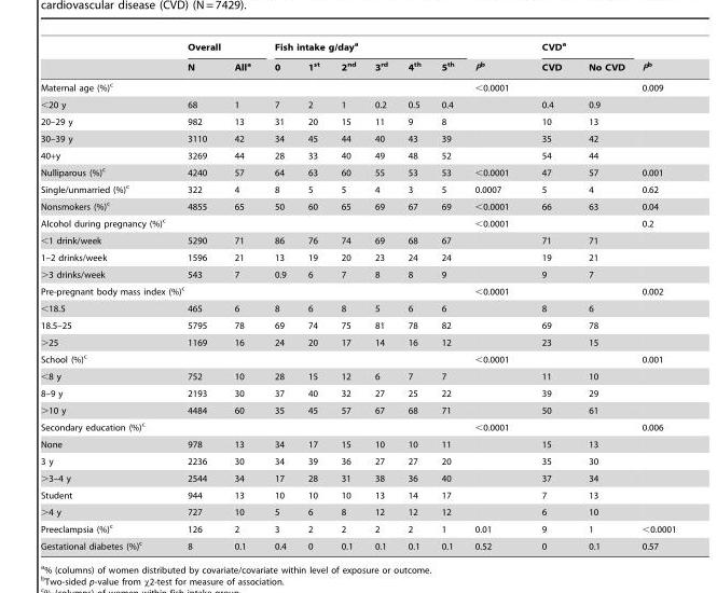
<table><thead><tr><td rowspan="2"></td><td colspan="2">Overall</td><td colspan="6">Fish intake g/day<sup>a</sup></td><td rowspan="2">Pb</td><td colspan="2">CVD<sup>a</sup></td><td rowspan="2">Pb</td></tr><tr><td>N</td><td>All<sup>a</sup></td><td>0</td><td>1<sup>st</sup></td><td>2<sup>nd</sup></td><td>3<sup>rd</sup></td><td>4<sup>th</sup></td><td>5<sup>th</sup></td><td>CVD</td><td>No CVD</td></tr></thead><tbody><tr><td>Maternal age (%)<sup>c</sup></td><td></td><td></td><td></td><td></td><td></td><td></td><td></td><td></td><td>&lt;0.0001</td><td></td><td></td><td>0.009</td></tr><tr><td>&lt;20 y</td><td>68</td><td>1</td><td>7</td><td>2</td><td>1</td><td>0.2</td><td>0.5</td><td>0.4</td><td></td><td>0.4</td><td>0.9</td><td></td></tr><tr><td>20–29 y</td><td>982</td><td>13</td><td>31</td><td>20</td><td>15</td><td>11</td><td>9</td><td>8</td><td></td><td>10</td><td>13</td><td></td></tr><tr><td>30–39 y</td><td>3110</td><td>42</td><td>34</td><td>45</td><td>44</td><td>40</td><td>43</td><td>39</td><td></td><td>35</td><td>42</td><td></td></tr><tr><td>40+y</td><td>3269</td><td>44</td><td>28</td><td>33</td><td>40</td><td>49</td><td>48</td><td>52</td><td></td><td>54</td><td>44</td><td></td></tr><tr><td>Nulliparous (%)<sup>c</sup></td><td>4240</td><td>57</td><td>64</td><td>63</td><td>60</td><td>55</td><td>53</td><td>53</td><td>&lt;0.0001</td><td>47</td><td>57</td><td>0.001</td></tr><tr><td>Single/unmarried (%)<sup>c</sup></td><td>322</td><td>4</td><td>8</td><td>5</td><td>5</td><td>4</td><td>3</td><td>5</td><td>0.0007</td><td>5</td><td>4</td><td>0.62</td></tr><tr><td>Nonsmokers (%)<sup>c</sup></td><td>4855</td><td>65</td><td>50</td><td>60</td><td>65</td><td>69</td><td>67</td><td>69</td><td>&lt;0.0001</td><td>66</td><td>63</td><td>0.04</td></tr><tr><td>Alcohol during pregnancy (%)<sup>c</sup></td><td></td><td></td><td></td><td></td><td></td><td></td><td></td><td></td><td>&lt;0.0001</td><td></td><td></td><td>0.2</td></tr><tr><td>&lt;1 drink/week</td><td>5290</td><td>71</td><td>86</td><td>76</td><td>74</td><td>69</td><td>68</td><td>67</td><td></td><td>71</td><td>71</td><td></td></tr><tr><td>1–2 drinks/week</td><td>1596</td><td>21</td><td>13</td><td>19</td><td>20</td><td>23</td><td>24</td><td>24</td><td></td><td>19</td><td>21</td><td></td></tr><tr><td>&gt;3 drinks/week</td><td>543</td><td>7</td><td>0.9</td><td>6</td><td>7</td><td>8</td><td>8</td><td>9</td><td></td><td>9</td><td>7</td><td></td></tr><tr><td>Pre-pregnant body mass index (%)<sup>c</sup></td><td></td><td></td><td></td><td></td><td></td><td></td><td></td><td></td><td>&lt;0.0001</td><td></td><td></td><td>0.002</td></tr><tr><td>&lt;18.5</td><td>465</td><td>6</td><td>8</td><td>6</td><td>8</td><td>5</td><td>6</td><td>6</td><td></td><td>8</td><td>6</td><td></td></tr><tr><td>18.5–25</td><td>5795</td><td>78</td><td>69</td><td>74</td><td>75</td><td>81</td><td>78</td><td>82</td><td></td><td>69</td><td>78</td><td></td></tr><tr><td>&gt;25</td><td>1169</td><td>16</td><td>24</td><td>20</td><td>17</td><td>14</td><td>16</td><td>12</td><td></td><td>23</td><td>15</td><td></td></tr><tr><td>School (%)<sup>c</sup></td><td></td><td></td><td></td><td></td><td></td><td></td><td></td><td></td><td>&lt;0.0001</td><td></td><td></td><td>0.001</td></tr><tr><td>&lt;8 y</td><td>752</td><td>10</td><td>28</td><td>15</td><td>12</td><td>6</td><td>7</td><td>7</td><td></td><td>11</td><td>10</td><td></td></tr><tr><td>8–9 y</td><td>2193</td><td>30</td><td>37</td><td>40</td><td>32</td><td>27</td><td>25</td><td>22</td><td></td><td>39</td><td>29</td><td></td></tr><tr><td>&gt;10 y</td><td>4484</td><td>60</td><td>35</td><td>45</td><td>57</td><td>67</td><td>68</td><td>71</td><td></td><td>50</td><td>61</td><td></td></tr><tr><td>Secondary education (%)<sup>c</sup></td><td></td><td></td><td></td><td></td><td></td><td></td><td></td><td></td><td>&lt;0.0001</td><td></td><td></td><td>0.006</td></tr><tr><td>None</td><td>978</td><td>13</td><td>34</td><td>17</td><td>15</td><td>10</td><td>10</td><td>11</td><td></td><td>15</td><td>13</td><td></td></tr><tr><td>3 y</td><td>2236</td><td>30</td><td>34</td><td>39</td><td>36</td><td>27</td><td>27</td><td>20</td><td></td><td>35</td><td>30</td><td></td></tr><tr><td>&gt;3–4 y</td><td>2544</td><td>34</td><td>17</td><td>28</td><td>31</td><td>38</td><td>36</td><td>40</td><td></td><td>37</td><td>34</td><td></td></tr><tr><td>Student</td><td>944</td><td>13</td><td>10</td><td>10</td><td>10</td><td>13</td><td>14</td><td>17</td><td></td><td>7</td><td>13</td><td></td></tr><tr><td>&gt;4 y</td><td>727</td><td>10</td><td>5</td><td>6</td><td>8</td><td>12</td><td>12</td><td>12</td><td></td><td>6</td><td>10</td><td></td></tr><tr><td>Preeclampsia (%)<sup>c</sup></td><td>126</td><td>2</td><td>3</td><td>2</td><td>2</td><td>2</td><td>2</td><td>1</td><td>0.01</td><td>9</td><td>1</td><td>&lt;0.0001</td></tr><tr><td>Gestational diabetes (%)<sup>c</sup></td><td>8</td><td>0.1</td><td>0.4</td><td>0</td><td>0.1</td><td>0.1</td><td>0.1</td><td>0.1</td><td>0.52</td><td>0</td><td>0.1</td><td>0.57</td></tr></tbody></table>